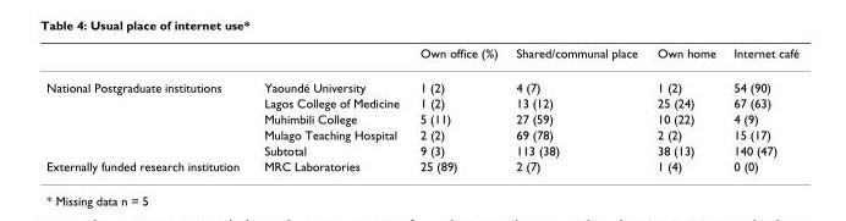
<table><thead><tr><td></td><td></td><td>Own office (%)</td><td>Shared/communal place</td><td>Own home</td><td>Internet café</td></tr></thead><tbody><tr><td rowspan="5">National Postgraduate institutions</td><td>Yaoundé University</td><td>1 (2)</td><td>4 (7)</td><td>1 (2)</td><td>54 (90)</td></tr><tr><td>Lagos College of Medicine</td><td>1 (2)</td><td>13 (12)</td><td>25 (24)</td><td>67 (63)</td></tr><tr><td>Muhimbili College</td><td>5 (11)</td><td>27 (59)</td><td>10 (22)</td><td>4 (9)</td></tr><tr><td>Mulago Teaching Hospital</td><td>2 (2)</td><td>69 (78)</td><td>2 (2)</td><td>15 (17)</td></tr><tr><td>Subtotal</td><td>9 (3)</td><td>113 (38)</td><td>38 (13)</td><td>140 (47)</td></tr><tr><td>Externally funded research institution</td><td>MRC Laboratories</td><td>25 (89)</td><td>2 (7)</td><td>1 (4)</td><td>0 (0)</td></tr></tbody></table>